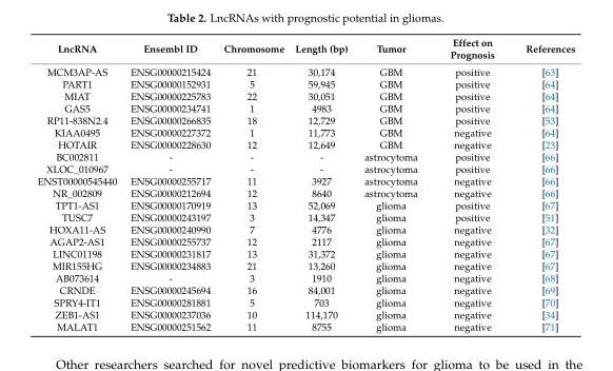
<table><thead><tr><td>LncRNA</td><td>Ensembl ID</td><td>Chromosome</td><td>Length (bp)</td><td>Tumor</td><td>Effect on Prognosis</td><td>References</td></tr></thead><tbody><tr><td>MCM3AP-AS</td><td>ENSG00000215424</td><td>21</td><td>30,174</td><td>GBM</td><td>positive</td><td>[63]</td></tr><tr><td>PART1</td><td>ENSG00000152931</td><td>5</td><td>59,945</td><td>GBM</td><td>positive</td><td>[64]</td></tr><tr><td>MIAT</td><td>ENSG00000225783</td><td>22</td><td>30,051</td><td>GBM</td><td>positive</td><td>[64]</td></tr><tr><td>GAS5</td><td>ENSG00000234741</td><td>1</td><td>4983</td><td>GBM</td><td>positive</td><td>[64]</td></tr><tr><td>RP11-838N2.4</td><td>ENSG00000266835</td><td>18</td><td>12,729</td><td>GBM</td><td>positive</td><td>[53]</td></tr><tr><td>KIAA0495</td><td>ENSG00000227372</td><td>1</td><td>11,773</td><td>GBM</td><td>negative</td><td>[64]</td></tr><tr><td>HOTAIR</td><td>ENSG00000228630</td><td>12</td><td>12,649</td><td>GBM</td><td>negative</td><td>[23]</td></tr><tr><td>BC002811</td><td>-</td><td>-</td><td>-</td><td>astrocytoma</td><td>positive</td><td>[66]</td></tr><tr><td>XLOC_010967</td><td>-</td><td>-</td><td>-</td><td>astrocytoma</td><td>positive</td><td>[66]</td></tr><tr><td>ENST00000545440</td><td>ENSG00000255717</td><td>11</td><td>3927</td><td>astrocytoma</td><td>negative</td><td>[66]</td></tr><tr><td>NR_002809</td><td>ENSG00000212694</td><td>12</td><td>8640</td><td>astrocytoma</td><td>negative</td><td>[66]</td></tr><tr><td>TPT1-AS1</td><td>ENSG00000170919</td><td>13</td><td>52,069</td><td>glioma</td><td>positive</td><td>[67]</td></tr><tr><td>TUSC7</td><td>ENSG00000243197</td><td>3</td><td>14,347</td><td>glioma</td><td>positive</td><td>[51]</td></tr><tr><td>HOXA11-AS</td><td>ENSG00000240990</td><td>7</td><td>4776</td><td>glioma</td><td>negative</td><td>[32]</td></tr><tr><td>AGAP2-AS1</td><td>ENSG00000255737</td><td>12</td><td>2117</td><td>glioma</td><td>negative</td><td>[67]</td></tr><tr><td>LINC01198</td><td>ENSG00000231817</td><td>13</td><td>31,372</td><td>glioma</td><td>negative</td><td>[67]</td></tr><tr><td>MIR155HG</td><td>ENSG00000234883</td><td>21</td><td>13,260</td><td>glioma</td><td>negative</td><td>[67]</td></tr><tr><td>AB073614</td><td>-</td><td>3</td><td>1910</td><td>glioma</td><td>negative</td><td>[68]</td></tr><tr><td>CRNDE</td><td>ENSG00000245694</td><td>16</td><td>84,001</td><td>glioma</td><td>negative</td><td>[69]</td></tr><tr><td>SPRY4-IT1</td><td>ENSG00000281881</td><td>5</td><td>703</td><td>glioma</td><td>negative</td><td>[70]</td></tr><tr><td>ZEB1-AS1</td><td>ENSG00000237036</td><td>10</td><td>114,170</td><td>glioma</td><td>negative</td><td>[34]</td></tr><tr><td>MALAT1</td><td>ENSG00000251562</td><td>11</td><td>8755</td><td>glioma</td><td>negative</td><td>[71]</td></tr></tbody></table>